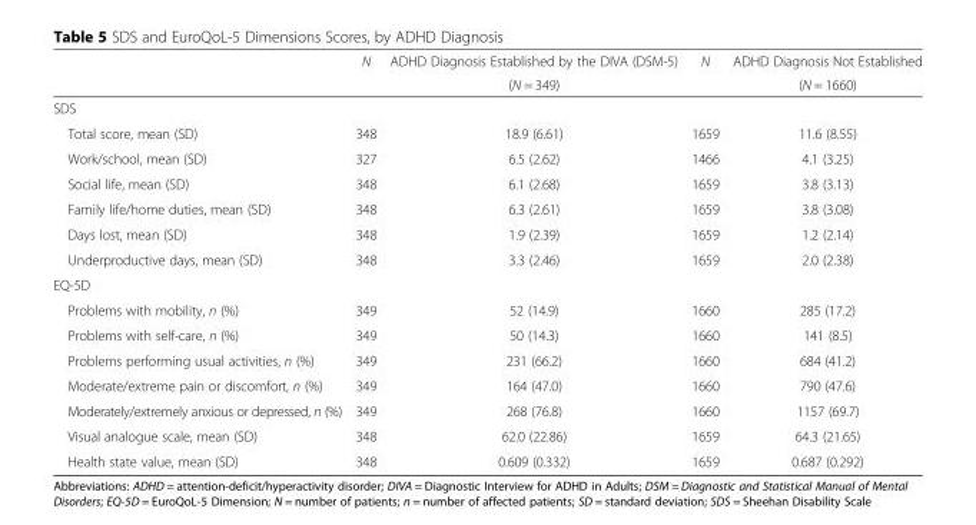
<table><thead><tr><td rowspan="2"></td><td rowspan="2">N</td><td rowspan="2">ADHD Diagnosis Established by the DIVA (DSM-5) (N = 349)</td><td rowspan="2">N</td><td rowspan="2">ADHD Diagnosis Not Established (N = 1660)</td></tr><tr></tr></thead><tbody><tr><td colspan="5">SDS</td></tr><tr><td>Total score, mean (SD)</td><td>348</td><td>18.9 (6.61)</td><td>1659</td><td>11.6 (8.55)</td></tr><tr><td>Work/school, mean (SD)</td><td>327</td><td>6.5 (2.62)</td><td>1466</td><td>4.1 (3.25)</td></tr><tr><td>Social life, mean (SD)</td><td>348</td><td>6.1 (2.68)</td><td>1659</td><td>3.8 (3.13)</td></tr><tr><td>Family life/home duties, mean (SD)</td><td>348</td><td>6.3 (2.61)</td><td>1659</td><td>3.8 (3.08)</td></tr><tr><td>Days lost, mean (SD)</td><td>348</td><td>1.9 (2.39)</td><td>1659</td><td>1.2 (2.14)</td></tr><tr><td>Underproductive days, mean (SD)</td><td>348</td><td>3.3 (2.46)</td><td>1659</td><td>2.0 (2.38)</td></tr><tr><td colspan="5">EQ-5D</td></tr><tr><td>Problems with mobility, n (%)</td><td>349</td><td>52 (14.9)</td><td>1660</td><td>285 (17.2)</td></tr><tr><td>Problems with self-care, n (%)</td><td>349</td><td>50 (14.3)</td><td>1660</td><td>141 (8.5)</td></tr><tr><td>Problems performing usual activities, n (%)</td><td>349</td><td>231 (66.2)</td><td>1660</td><td>684 (41.2)</td></tr><tr><td>Moderate/extreme pain or discomfort, n (%)</td><td>349</td><td>164 (47.0)</td><td>1660</td><td>790 (47.6)</td></tr><tr><td>Moderately/extremely anxious or depressed, n (%)</td><td>349</td><td>268 (76.8)</td><td>1660</td><td>1157 (69.7)</td></tr><tr><td>Visual analogue scale, mean (SD)</td><td>348</td><td>62.0 (22.86)</td><td>1659</td><td>64.3 (21.65)</td></tr><tr><td>Health state value, mean (SD)</td><td>348</td><td>0.609 (0.332)</td><td>1659</td><td>0.687 (0.292)</td></tr></tbody></table>